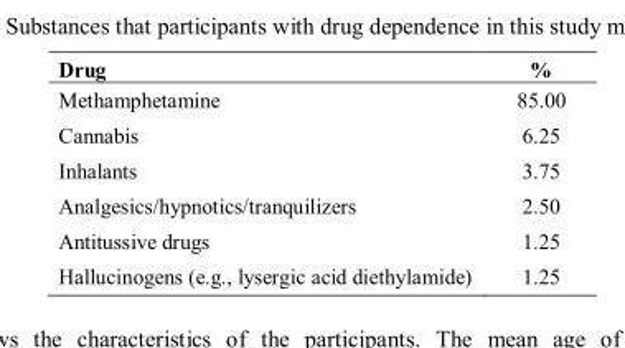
<table><thead><tr><td>Drug</td><td>%</td></tr></thead><tbody><tr><td>Methamphetamine</td><td>85.00</td></tr><tr><td>Cannabis</td><td>6.25</td></tr><tr><td>Inhalants</td><td>3.75</td></tr><tr><td>Analgesics/hypnotics/tranquilizers</td><td>2.50</td></tr><tr><td>Antitussive drugs</td><td>1.25</td></tr><tr><td>Hallucinogens (e.g., lysergic acid diethylamide)</td><td>1.25</td></tr></tbody></table>